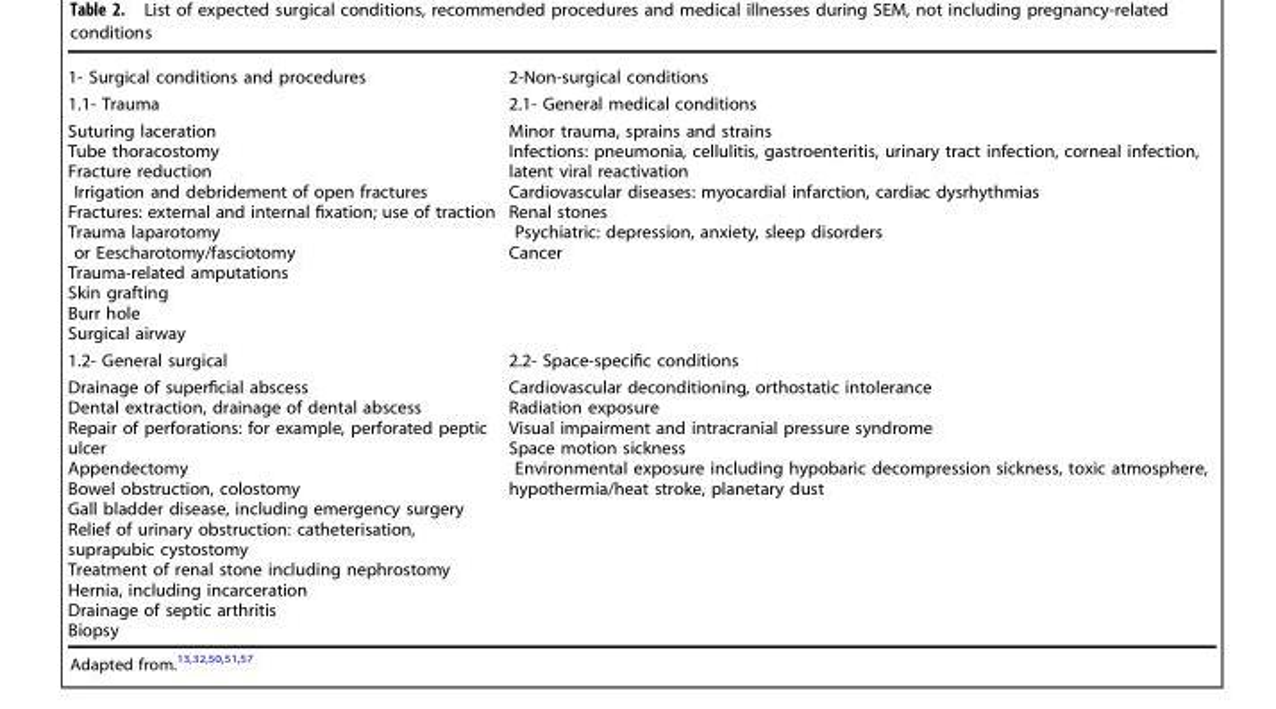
<table><tbody><tr><td>1- Surgical conditions and procedures</td><td>2-Non-surgical conditions</td></tr><tr><td>1.1- Trauma</td><td>2.1- General medical conditions</td></tr><tr><td>Suturing laceration Tube thoracostomy Fracture reduction Irrigation and debridement of open fractures Fractures: external and internal fixation; use of traction Trauma laparotomy or Eescharotomy/fasciotomy Trauma-related amputations Skin grafting Burr hole Surgical airway</td><td>Minor trauma, sprains and strains Infections: pneumonia, cellulitis, gastroenteritis, urinary tract infection, corneal infection, latent viral reactivation Cardiovascular diseases: myocardial infarction, cardiac dysrhythmias Renal stones Psychiatric: depression, anxiety, sleep disorders Cancer</td></tr><tr><td>1.2- General surgical</td><td>2.2- Space-specific conditions</td></tr><tr><td>Drainage of superficial abscess Dental extraction, drainage of dental abscess Repair of perforations: for example, perforated peptic ulcer Appendectomy Bowel obstruction, colostomy Gall bladder disease, including emergency surgery Relief of urinary obstruction: catheterisation, suprapubic cystostomy Treatment of renal stone including nephrostomy Hernia, including incarceration Drainage of septic arthritis Biopsy</td><td>Cardiovascular deconditioning, orthostatic intolerance Radiation exposure Visual impairment and intracranial pressure syndrome Space motion sickness Environmental exposure including hypobaric decompression sickness, toxic atmosphere, hypothermia/heat stroke, planetary dust</td></tr></tbody></table>